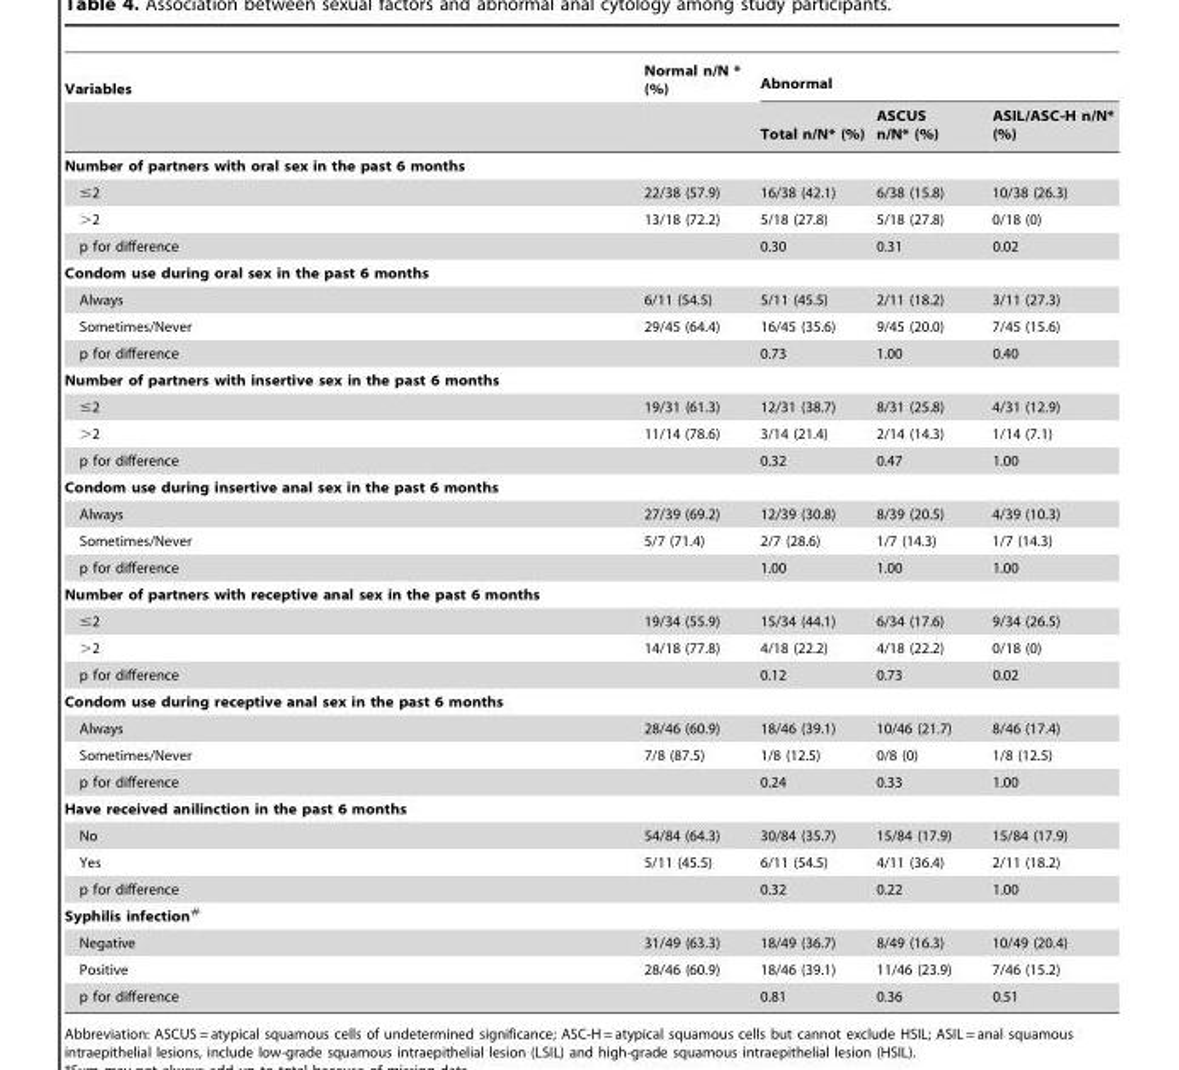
<table><thead><tr><td rowspan="2">Variables</td><td rowspan="2">Normal n/N * (%)</td><td colspan="3">Abnormal</td></tr><tr><td>Total n/N* (%)</td><td>ASCUS n/N* (%)</td><td>ASIL/ASC-H n/N* (%)</td></tr></thead><tbody><tr><td colspan="5">Number of partners with oral sex in the past 6 months</td></tr><tr><td>≤2</td><td>22/38 (57.9)</td><td>16/38 (42.1)</td><td>6/38 (15.8)</td><td>10/38 (26.3)</td></tr><tr><td>&gt;2</td><td>13/18 (72.2)</td><td>5/18 (27.8)</td><td>5/18 (27.8)</td><td>0/18 (0)</td></tr><tr><td>p for difference</td><td></td><td>0.30</td><td>0.31</td><td>0.02</td></tr><tr><td colspan="5">Condom use during oral sex in the past 6 months</td></tr><tr><td>Always</td><td>6/11 (54.5)</td><td>5/11 (45.5)</td><td>2/11 (18.2)</td><td>3/11 (27.3)</td></tr><tr><td>Sometimes/Never</td><td>29/45 (64.4)</td><td>16/45 (35.6)</td><td>9/45 (20.0)</td><td>7/45 (15.6)</td></tr><tr><td>p for difference</td><td></td><td>0.73</td><td>1.00</td><td>0.40</td></tr><tr><td colspan="5">Number of partners with insertive sex in the past 6 months</td></tr><tr><td>≤2</td><td>19/31 (61.3)</td><td>12/31 (38.7)</td><td>8/31 (25.8)</td><td>4/31 (12.9)</td></tr><tr><td>&gt;2</td><td>11/14 (78.6)</td><td>3/14 (21.4)</td><td>2/14 (14.3)</td><td>1/14 (7.1)</td></tr><tr><td>p for difference</td><td></td><td>0.32</td><td>0.47</td><td>1.00</td></tr><tr><td colspan="5">Condom use during insertive anal sex in the past 6 months</td></tr><tr><td>Always</td><td>27/39 (69.2)</td><td>12/39 (30.8)</td><td>8/39 (20.5)</td><td>4/39 (10.3)</td></tr><tr><td>Sometimes/Never</td><td>5/7 (71.4)</td><td>2/7 (28.6)</td><td>1/7 (14.3)</td><td>1/7 (14.3)</td></tr><tr><td>p for difference</td><td></td><td>1.00</td><td>1.00</td><td>1.00</td></tr><tr><td colspan="5">Number of partners with receptive anal sex in the past 6 months</td></tr><tr><td>≤2</td><td>19/34 (55.9)</td><td>15/34 (44.1)</td><td>6/34 (17.6)</td><td>9/34 (26.5)</td></tr><tr><td>&gt;2</td><td>14/18 (77.8)</td><td>4/18 (22.2)</td><td>4/18 (22.2)</td><td>0/18 (0)</td></tr><tr><td>p for difference</td><td></td><td>0.12</td><td>0.73</td><td>0.02</td></tr><tr><td colspan="5">Condom use during receptive anal sex in the past 6 months</td></tr><tr><td>Always</td><td>28/46 (60.9)</td><td>18/46 (39.1)</td><td>10/46 (21.7)</td><td>8/46 (17.4)</td></tr><tr><td>Sometimes/Never</td><td>7/8 (87.5)</td><td>1/8 (12.5)</td><td>0/8 (0)</td><td>1/8 (12.5)</td></tr><tr><td>p for difference</td><td></td><td>0.24</td><td>0.33</td><td>1.00</td></tr><tr><td colspan="5">Have received anilinction in the past 6 months</td></tr><tr><td>No</td><td>54/84 (64.3)</td><td>30/84 (35.7)</td><td>15/84 (17.9)</td><td>15/84 (17.9)</td></tr><tr><td>Yes</td><td>5/11 (45.5)</td><td>6/11 (54.5)</td><td>4/11 (36.4)</td><td>2/11 (18.2)</td></tr><tr><td>p for difference</td><td></td><td>0.32</td><td>0.22</td><td>1.00</td></tr><tr><td colspan="5">Syphilis infection#</td></tr><tr><td>Negative</td><td>31/49 (63.3)</td><td>18/49 (36.7)</td><td>8/49 (16.3)</td><td>10/49 (20.4)</td></tr><tr><td>Positive</td><td>28/46 (60.9)</td><td>18/46 (39.1)</td><td>11/46 (23.9)</td><td>7/46 (15.2)</td></tr><tr><td>p for difference</td><td></td><td>0.81</td><td>0.36</td><td>0.51</td></tr></tbody></table>